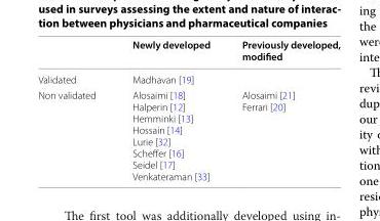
<table><thead><tr><td></td><td>Newly developed</td><td>Previously developed, modified</td></tr></thead><tbody><tr><td>Validated</td><td>Madhavan [19]</td><td></td></tr><tr><td>Non validated</td><td>Alosaimi [18] Halperin [12] Hemminki [13] Hossain [14] Lurie [32] Scheffer [16] Seidel [17] Venkateraman [33]</td><td>Alosaimi [21] Ferrari [20]</td></tr></tbody></table>